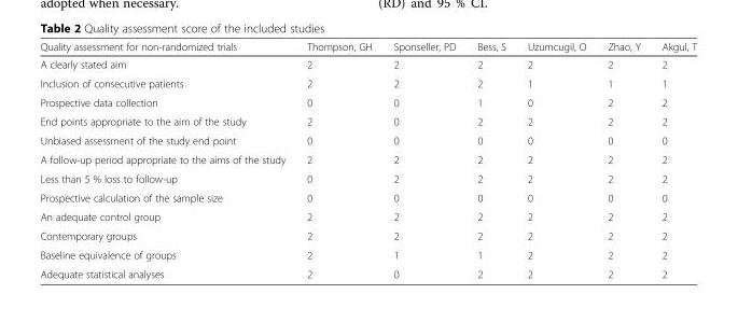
<table><thead><tr><td>Quality assessment for non-randomized trials</td><td>Thompson, GH</td><td>Sponseller, PD</td><td>Bess, S</td><td>Uzumcugil, O</td><td>Zhao, Y</td><td>Akgul, T</td></tr></thead><tbody><tr><td>A clearly stated aim</td><td>2</td><td>2</td><td>2</td><td>2</td><td>2</td><td>2</td></tr><tr><td>Inclusion of consecutive patients</td><td>2</td><td>2</td><td>2</td><td>1</td><td>1</td><td>1</td></tr><tr><td>Prospective data collection</td><td>0</td><td>0</td><td>1</td><td>0</td><td>2</td><td>2</td></tr><tr><td>End points appropriate to the aim of the study</td><td>2</td><td>0</td><td>2</td><td>2</td><td>2</td><td>2</td></tr><tr><td>Unbiased assessment of the study end point</td><td>0</td><td>0</td><td>0</td><td>0</td><td>0</td><td>0</td></tr><tr><td>A follow-up period appropriate to the aims of the study</td><td>2</td><td>2</td><td>2</td><td>2</td><td>2</td><td>2</td></tr><tr><td>Less than 5 % loss to follow-up</td><td>0</td><td>2</td><td>2</td><td>2</td><td>2</td><td>2</td></tr><tr><td>Prospective calculation of the sample size</td><td>0</td><td>0</td><td>0</td><td>0</td><td>0</td><td>0</td></tr><tr><td>An adequate control group</td><td>2</td><td>2</td><td>2</td><td>2</td><td>2</td><td>2</td></tr><tr><td>Contemporary groups</td><td>2</td><td>2</td><td>2</td><td>2</td><td>2</td><td>2</td></tr><tr><td>Baseline equivalence of groups</td><td>2</td><td>1</td><td>1</td><td>2</td><td>2</td><td>2</td></tr><tr><td>Adequate statistical analyses</td><td>2</td><td>0</td><td>2</td><td>2</td><td>2</td><td>2</td></tr></tbody></table>